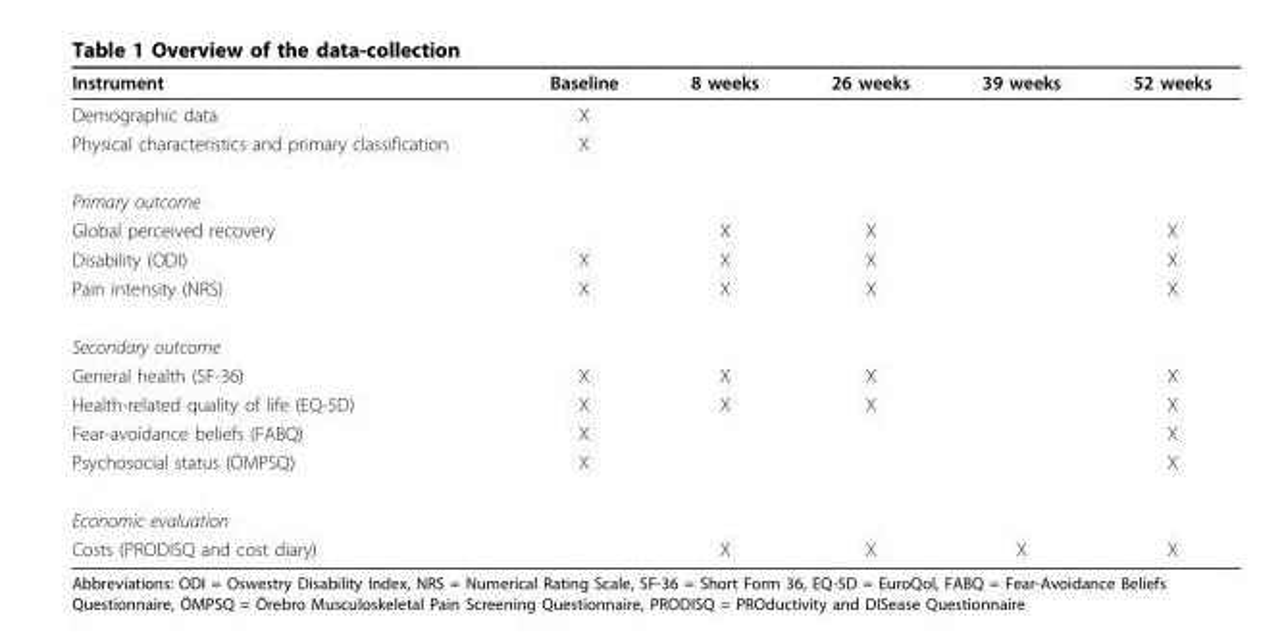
<table><thead><tr><td>Instrument</td><td>Baseline</td><td>8 weeks</td><td>26 weeks</td><td>39 weeks</td><td>52 weeks</td></tr></thead><tbody><tr><td>Demographic data</td><td>X</td><td></td><td></td><td></td><td></td></tr><tr><td>Physical characteristics and primary classification</td><td>X</td><td></td><td></td><td></td><td></td></tr><tr><td colspan="6">Primary outcome</td></tr><tr><td>Global perceived recovery</td><td></td><td>X</td><td>X</td><td></td><td>X</td></tr><tr><td>Disability (ODI)</td><td>X</td><td>X</td><td>X</td><td></td><td>X</td></tr><tr><td>Pain intensity (NRS)</td><td>X</td><td>X</td><td>X</td><td></td><td>X</td></tr><tr><td colspan="6">Secondary outcome</td></tr><tr><td>General health (SF-36)</td><td>X</td><td>X</td><td>X</td><td></td><td>X</td></tr><tr><td>Health-related quality of life (EQ-5D)</td><td>X</td><td>X</td><td>X</td><td></td><td>X</td></tr><tr><td>Fear-avoidance beliefs (FABQ)</td><td>X</td><td></td><td></td><td></td><td>X</td></tr><tr><td>Psychosocial status (ÖMPSQ)</td><td>X</td><td></td><td></td><td></td><td>X</td></tr><tr><td colspan="6">Economic evaluation</td></tr><tr><td>Costs (PRODISQ and cost diary)</td><td></td><td>X</td><td>X</td><td>X</td><td>X</td></tr></tbody></table>